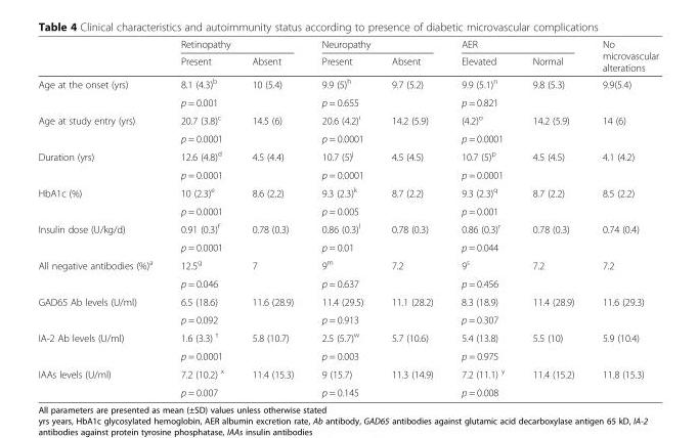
<table><thead><tr><td rowspan="2"></td><td colspan="2">Retinopathy</td><td colspan="2">Neuropathy</td><td colspan="2">AER</td><td rowspan="2">No microvascular alterations</td></tr><tr><td>Present</td><td>Absent</td><td>Present</td><td>Absent</td><td>Elevated</td><td>Normal</td></tr></thead><tbody><tr><td rowspan="2">Age at the onset (yrs)</td><td>8.1 (4.3)<sup>b</sup></td><td>10 (5.4)</td><td>9.9 (5)<sup>h</sup></td><td>9.7 (5.2)</td><td>9.9 (5.1)<sup>n</sup></td><td>9.8 (5.3)</td><td>9.9(5.4)</td></tr><tr><td colspan="2">p = 0.001</td><td colspan="2">p = 0.655</td><td colspan="2">p = 0.821</td><td></td></tr><tr><td rowspan="2">Age at study entry (yrs)</td><td>20.7 (3.8)<sup>c</sup></td><td>14.5 (6)</td><td>20.6 (4.2)<sup>i</sup></td><td>14.2 (5.9)</td><td>(4.2)<sup>o</sup></td><td>14.2 (5.9)</td><td>14 (6)</td></tr><tr><td colspan="2">p = 0.0001</td><td colspan="2">p = 0.0001</td><td colspan="2">p = 0.0001</td><td></td></tr><tr><td rowspan="2">Duration (yrs)</td><td>12.6 (4.8)<sup>d</sup></td><td>4.5 (4.4)</td><td>10.7 (5)<sup>j</sup></td><td>4.5 (4.5)</td><td>10.7 (5)<sup>p</sup></td><td>4.5 (4.5)</td><td>4.1 (4.2)</td></tr><tr><td colspan="2">p = 0.0001</td><td colspan="2">p = 0.0001</td><td colspan="2">p = 0.0001</td><td></td></tr><tr><td rowspan="2">HbA1c (%)</td><td>10 (2.3)<sup>e</sup></td><td>8.6 (2.2)</td><td>9.3 (2.3)<sup>k</sup></td><td>8.7 (2.2)</td><td>9.3 (2.3)<sup>q</sup></td><td>8.7 (2.2)</td><td>8.5 (2.2)</td></tr><tr><td colspan="2">p = 0.0001</td><td colspan="2">p = 0.005</td><td colspan="2">p = 0.001</td><td></td></tr><tr><td rowspan="2">Insulin dose (U/kg/d)</td><td>0.91 (0.3)<sup>f</sup></td><td>0.78 (0.3)</td><td>0.86 (0.3)<sup>l</sup></td><td>0.78 (0.3)</td><td>0.86 (0.3)<sup>r</sup></td><td>0.78 (0.3)</td><td>0.74 (0.4)</td></tr><tr><td colspan="2">p = 0.0001</td><td colspan="2">p = 0.01</td><td colspan="2">p = 0.044</td><td></td></tr><tr><td rowspan="2">All negative antibodies (%)<sup>a</sup></td><td>12.5<sup>g</sup></td><td>7</td><td>9<sup>m</sup></td><td>7.2</td><td>9<sup>s</sup></td><td>7.2</td><td>7.2</td></tr><tr><td colspan="2">p = 0.046</td><td colspan="2">p = 0.637</td><td colspan="2">p = 0.456</td><td></td></tr><tr><td rowspan="2">GAD65 Ab levels (U/ml)</td><td>6.5 (18.6)</td><td>11.6 (28.9)</td><td>11.4 (29.5)</td><td>11.1 (28.2)</td><td>8.3 (18.9)</td><td>11.4 (28.9)</td><td>11.6 (29.3)</td></tr><tr><td colspan="2">p = 0.092</td><td colspan="2">p = 0.913</td><td colspan="2">p = 0.307</td><td></td></tr><tr><td rowspan="2">IA-2 Ab levels (U/ml)</td><td>1.6 (3.3) <sup>t</sup></td><td>5.8 (10.7)</td><td>2.5 (5.7)<sup>w</sup></td><td>5.7 (10.6)</td><td>5.4 (13.8)</td><td>5.5 (10)</td><td>5.9 (10.4)</td></tr><tr><td colspan="2">p = 0.0001</td><td colspan="2">p = 0.003</td><td colspan="2">p = 0.975</td><td></td></tr><tr><td rowspan="2">IAAs levels (U/ml)</td><td>7.2 (10.2) <sup>x</sup></td><td>11.4 (15.3)</td><td>9 (15.7)</td><td>11.3 (14.9)</td><td>7.2 (11.1) <sup>y</sup></td><td>11.4 (15.2)</td><td>11.8 (15.3)</td></tr><tr><td colspan="2">p = 0.007</td><td colspan="2">p = 0.145</td><td colspan="2">p = 0.008</td><td></td></tr></tbody></table>